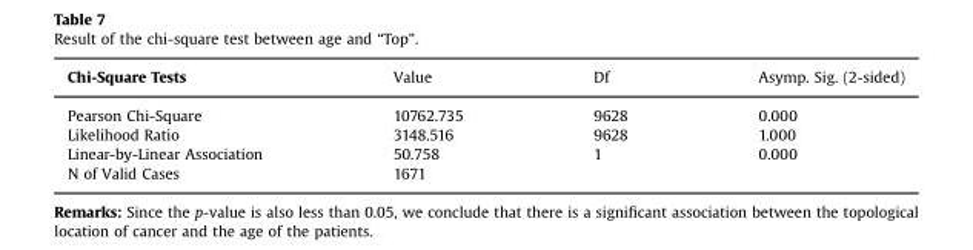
<table><thead><tr><td>Chi-Square Tests</td><td>Value</td><td>Df</td><td>Asymp. Sig. (2-sided)</td></tr></thead><tbody><tr><td>Pearson Chi-Square</td><td>10762.735</td><td>9628</td><td>0.000</td></tr><tr><td>Likelihood Ratio</td><td>3148.516</td><td>9628</td><td>1.000</td></tr><tr><td>Linear-by-Linear Association</td><td>50.758</td><td>1</td><td>0.000</td></tr><tr><td>N of Valid Cases</td><td>1671</td><td></td><td></td></tr></tbody></table>